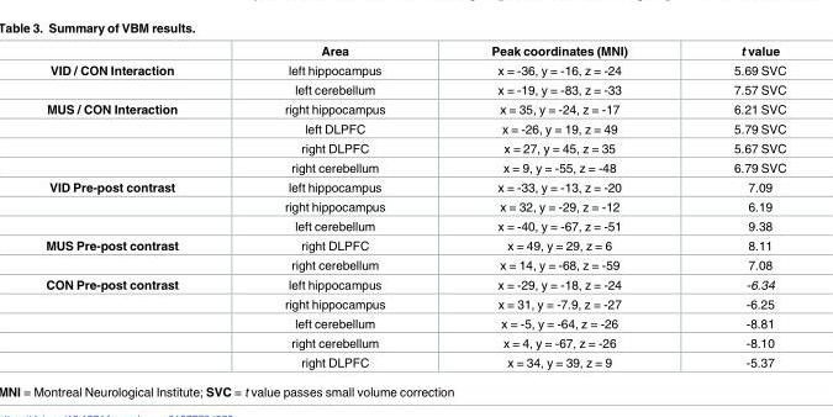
<table><thead><tr><td></td><td>Area</td><td>Peak coordinates (MNI)</td><td>t value</td></tr></thead><tbody><tr><td rowspan="2">VID / CON Interaction</td><td>left hippocampus</td><td>x = -36, y = -16, z = -24</td><td>5.69 SVC</td></tr><tr><td>left cerebellum</td><td>x = -19, y = -83, z = -33</td><td>7.57 SVC</td></tr><tr><td rowspan="4">MUS / CON Interaction</td><td>right hippocampus</td><td>x = 35, y = -24, z = -17</td><td>6.21 SVC</td></tr><tr><td>left DLPFC</td><td>x = -26, y = 19, z = 49</td><td>5.79 SVC</td></tr><tr><td>right DLPFC</td><td>x = 27, y = 45, z = 35</td><td>5.67 SVC</td></tr><tr><td>right cerebellum</td><td>x = 9, y = -55, z = -48</td><td>6.79 SVC</td></tr><tr><td rowspan="3">VID Pre-post contrast</td><td>left hippocampus</td><td>x = -33, y = -13, z = -20</td><td>7.09</td></tr><tr><td>right hippocampus</td><td>x = 32, y = -29, z = -12</td><td>6.19</td></tr><tr><td>left cerebellum</td><td>x = -40, y = -67, z = -51</td><td>9.38</td></tr><tr><td rowspan="2">MUS Pre-post contrast</td><td>right DLPFC</td><td>x = 49, y = 29, z = 6</td><td>8.11</td></tr><tr><td>right cerebellum</td><td>x = 14, y = -68, z = -59</td><td>7.08</td></tr><tr><td rowspan="5">CON Pre-post contrast</td><td>left hippocampus</td><td>x = -29, y = -18, z = -24</td><td>-6.34</td></tr><tr><td>right hippocampus</td><td>x = 31, y = -7.9, z = -27</td><td>-6.25</td></tr><tr><td>left cerebellum</td><td>x = -5, y = -64, z = -26</td><td>-8.81</td></tr><tr><td>right cerebellum</td><td>x = 4, y = -67, z = -26</td><td>-8.10</td></tr><tr><td>right DLPFC</td><td>x = 34, y = 39, z = 9</td><td>-5.37</td></tr></tbody></table>